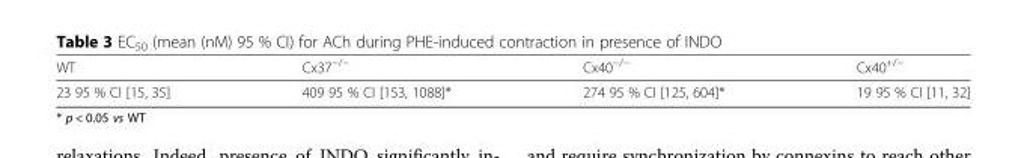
<table><thead><tr><td>WT</td><td>Cx37<sup>−/−</sup></td><td>Cx40<sup>−/−</sup></td><td>Cx40<sup>+/−</sup></td></tr></thead><tbody><tr><td>23 95 % CI [15, 35]</td><td>409 95 % CI [153, 1088]*</td><td>274 95 % CI [125, 604]*</td><td>19 95 % CI [11, 32]</td></tr></tbody></table>